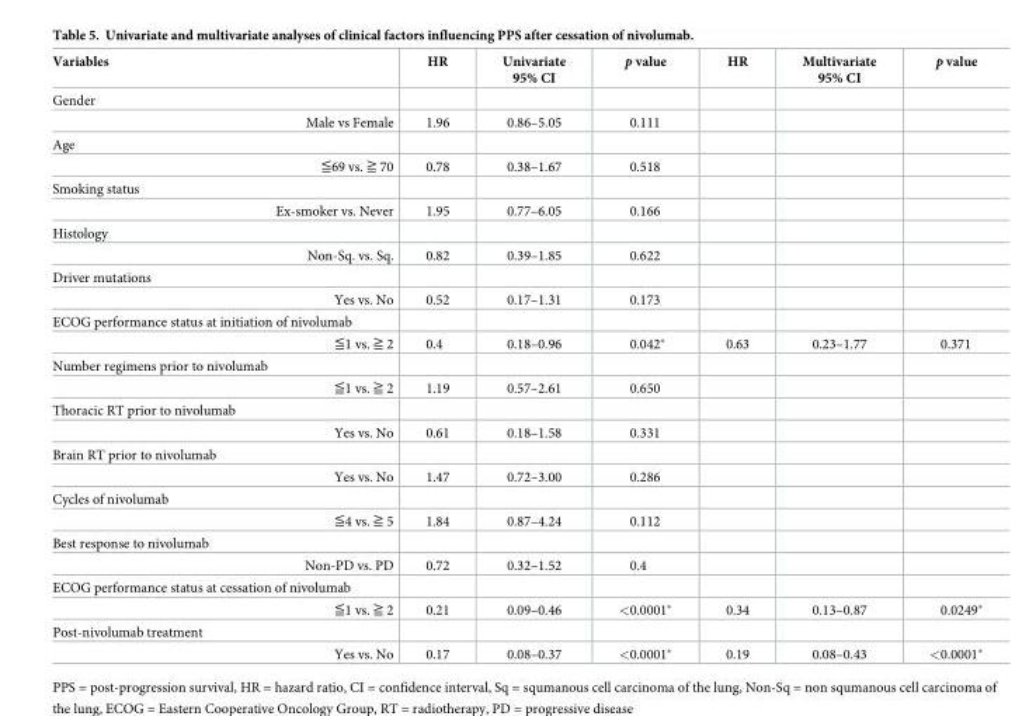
<table><thead><tr><td>Variables</td><td>HR</td><td>Univariate 95% CI</td><td>p value</td><td>HR</td><td>Multivariate 95% CI</td><td>p value</td></tr></thead><tbody><tr><td colspan="7">Gender</td></tr><tr><td>Male vs Female</td><td>1.96</td><td>0.86–5.05</td><td>0.111</td><td></td><td></td><td></td></tr><tr><td colspan="7">Age</td></tr><tr><td>≦69 vs. ≧ 70</td><td>0.78</td><td>0.38–1.67</td><td>0.518</td><td></td><td></td><td></td></tr><tr><td colspan="7">Smoking status</td></tr><tr><td>Ex-smoker vs. Never</td><td>1.95</td><td>0.77–6.05</td><td>0.166</td><td></td><td></td><td></td></tr><tr><td colspan="7">Histology</td></tr><tr><td>Non-Sq. vs. Sq.</td><td>0.82</td><td>0.39–1.85</td><td>0.622</td><td></td><td></td><td></td></tr><tr><td colspan="7">Driver mutations</td></tr><tr><td>Yes vs. No</td><td>0.52</td><td>0.17–1.31</td><td>0.173</td><td></td><td></td><td></td></tr><tr><td colspan="7">ECOG performance status at initiation of nivolumab</td></tr><tr><td>≦1 vs. ≧ 2</td><td>0.4</td><td>0.18–0.96</td><td>0.042*</td><td>0.63</td><td>0.23–1.77</td><td>0.371</td></tr><tr><td colspan="7">Number regimens prior to nivolumab</td></tr><tr><td>≦1 vs. ≧ 2</td><td>1.19</td><td>0.57–2.61</td><td>0.650</td><td></td><td></td><td></td></tr><tr><td colspan="7">Thoracic RT prior to nivolumab</td></tr><tr><td>Yes vs. No</td><td>0.61</td><td>0.18–1.58</td><td>0.331</td><td></td><td></td><td></td></tr><tr><td colspan="7">Brain RT prior to nivolumab</td></tr><tr><td>Yes vs. No</td><td>1.47</td><td>0.72–3.00</td><td>0.286</td><td></td><td></td><td></td></tr><tr><td colspan="7">Cycles of nivolumab</td></tr><tr><td>≦4 vs. ≧ 5</td><td>1.84</td><td>0.87–4.24</td><td>0.112</td><td></td><td></td><td></td></tr><tr><td colspan="7">Best response to nivolumab</td></tr><tr><td>Non-PD vs. PD</td><td>0.72</td><td>0.32–1.52</td><td>0.4</td><td></td><td></td><td></td></tr><tr><td colspan="7">ECOG performance status at cessation of nivolumab</td></tr><tr><td>≦1 vs. ≧ 2</td><td>0.21</td><td>0.09–0.46</td><td>&lt;0.0001*</td><td>0.34</td><td>0.13–0.87</td><td>0.0249*</td></tr><tr><td colspan="7">Post-nivolumab treatment</td></tr><tr><td>Yes vs. No</td><td>0.17</td><td>0.08–0.37</td><td>&lt;0.0001*</td><td>0.19</td><td>0.08–0.43</td><td>&lt;0.0001*</td></tr></tbody></table>